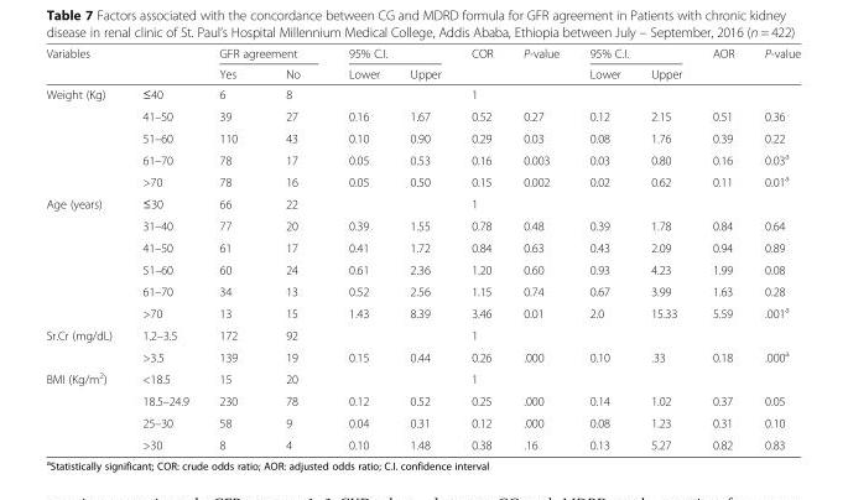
<table><thead><tr><td rowspan="2">Variables</td><td rowspan="2"></td><td colspan="2">GFR agreement</td><td colspan="2">95% C.I.</td><td rowspan="2">COR</td><td rowspan="2">P-value</td><td colspan="2">95% C.I.</td><td rowspan="2">AOR</td><td rowspan="2">P-value</td></tr><tr><td>Yes</td><td>No</td><td>Lower</td><td>Upper</td><td>Lower</td><td>Upper</td></tr></thead><tbody><tr><td rowspan="5">Weight (Kg)</td><td>≤40</td><td>6</td><td>8</td><td></td><td></td><td>1</td><td></td><td></td><td></td><td></td><td></td></tr><tr><td>41–50</td><td>39</td><td>27</td><td>0.16</td><td>1.67</td><td>0.52</td><td>0.27</td><td>0.12</td><td>2.15</td><td>0.51</td><td>0.36</td></tr><tr><td>51–60</td><td>110</td><td>43</td><td>0.10</td><td>0.90</td><td>0.29</td><td>0.03</td><td>0.08</td><td>1.76</td><td>0.39</td><td>0.22</td></tr><tr><td>61–70</td><td>78</td><td>17</td><td>0.05</td><td>0.53</td><td>0.16</td><td>0.003</td><td>0.03</td><td>0.80</td><td>0.16</td><td>0.03<sup>a</sup></td></tr><tr><td>&gt;70</td><td>78</td><td>16</td><td>0.05</td><td>0.50</td><td>0.15</td><td>0.002</td><td>0.02</td><td>0.62</td><td>0.11</td><td>0.01<sup>a</sup></td></tr><tr><td rowspan="6">Age (years)</td><td>≤30</td><td>66</td><td>22</td><td></td><td></td><td>1</td><td></td><td></td><td></td><td></td><td></td></tr><tr><td>31–40</td><td>77</td><td>20</td><td>0.39</td><td>1.55</td><td>0.78</td><td>0.48</td><td>0.39</td><td>1.78</td><td>0.84</td><td>0.64</td></tr><tr><td>41–50</td><td>61</td><td>17</td><td>0.41</td><td>1.72</td><td>0.84</td><td>0.63</td><td>0.43</td><td>2.09</td><td>0.94</td><td>0.89</td></tr><tr><td>51–60</td><td>60</td><td>24</td><td>0.61</td><td>2.36</td><td>1.20</td><td>0.60</td><td>0.93</td><td>4.23</td><td>1.99</td><td>0.08</td></tr><tr><td>61–70</td><td>34</td><td>13</td><td>0.52</td><td>2.56</td><td>1.15</td><td>0.74</td><td>0.67</td><td>3.99</td><td>1.63</td><td>0.28</td></tr><tr><td>&gt;70</td><td>13</td><td>15</td><td>1.43</td><td>8.39</td><td>3.46</td><td>0.01</td><td>2.0</td><td>15.33</td><td>5.59</td><td>.001<sup>a</sup></td></tr><tr><td rowspan="2">Sr.Cr (mg/dL)</td><td>1.2–3.5</td><td>172</td><td>92</td><td></td><td></td><td>1</td><td></td><td></td><td></td><td></td><td></td></tr><tr><td>&gt;3.5</td><td>139</td><td>19</td><td>0.15</td><td>0.44</td><td>0.26</td><td>.000</td><td>0.10</td><td>.33</td><td>0.18</td><td>.000<sup>a</sup></td></tr><tr><td rowspan="4">BMI (Kg/m<sup>2</sup>)</td><td>&lt;18.5</td><td>15</td><td>20</td><td></td><td></td><td>1</td><td></td><td></td><td></td><td></td><td></td></tr><tr><td>18.5–24.9</td><td>230</td><td>78</td><td>0.12</td><td>0.52</td><td>0.25</td><td>.000</td><td>0.14</td><td>1.02</td><td>0.37</td><td>0.05</td></tr><tr><td>25–30</td><td>58</td><td>9</td><td>0.04</td><td>0.31</td><td>0.12</td><td>.000</td><td>0.08</td><td>1.23</td><td>0.31</td><td>0.10</td></tr><tr><td>&gt;30</td><td>8</td><td>4</td><td>0.10</td><td>1.48</td><td>0.38</td><td>.16</td><td>0.13</td><td>5.27</td><td>0.82</td><td>0.83</td></tr></tbody></table>